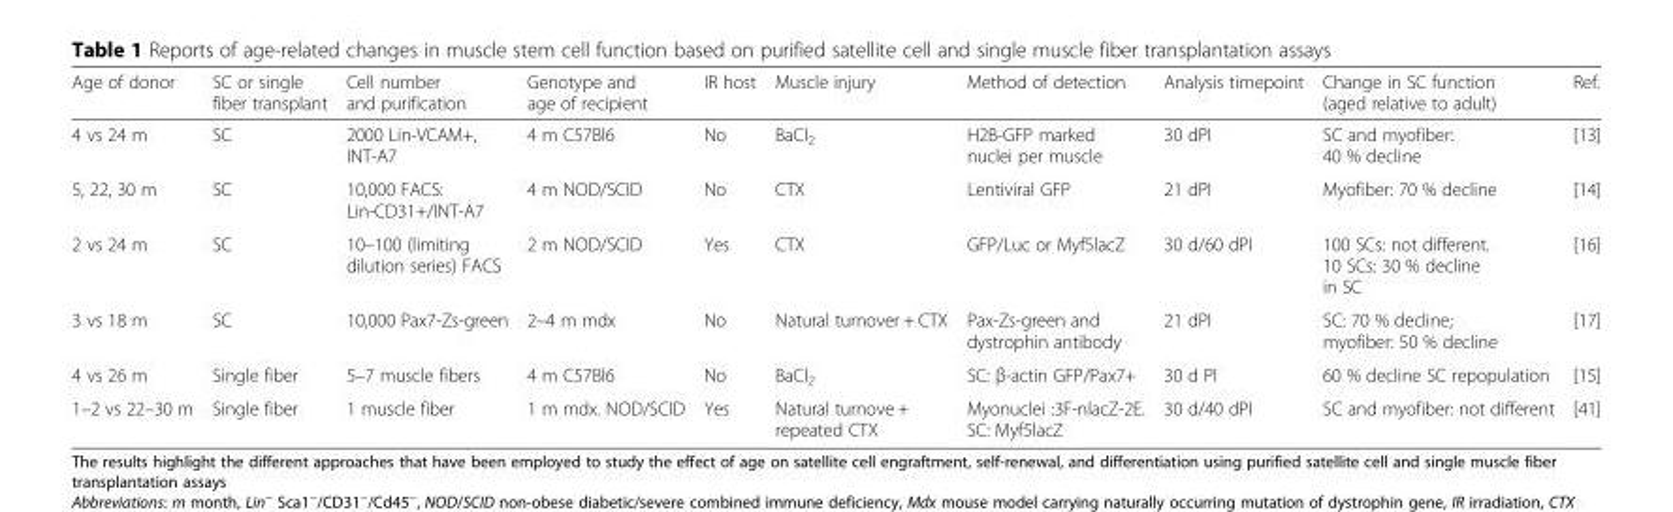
<table><thead><tr><td>Age of donor</td><td>SC or single fiber transplant</td><td>Cell number and purification</td><td>Genotype and age of recipient</td><td>IR host</td><td>Muscle injury</td><td>Method of detection</td><td>Analysis timepoint</td><td>Change in SC function (aged relative to adult)</td><td>Ref.</td></tr></thead><tbody><tr><td>4 vs 24 m</td><td>SC</td><td>2000 Lin-VCAM+, INT-A7</td><td>4 m C57Bl6</td><td>No</td><td>BaCl<sub>2</sub></td><td>H2B-GFP marked nuclei per muscle</td><td>30 dPI</td><td>SC and myofiber: 40 % decline</td><td>[13]</td></tr><tr><td>5, 22, 30 m</td><td>SC</td><td>10,000 FACS: Lin-CD31+/INT-A7</td><td>4 m NOD/SCID</td><td>No</td><td>CTX</td><td>Lentiviral GFP</td><td>21 dPI</td><td>Myofiber: 70 % decline</td><td>[14]</td></tr><tr><td>2 vs 24 m</td><td>SC</td><td>10–100 (limiting dilution series) FACS</td><td>2 m NOD/SCID</td><td>Yes</td><td>CTX</td><td>GFP/Luc or Myf5lacZ</td><td>30 d/60 dPI</td><td>100 SCs: not different. 10 SCs: 30 % decline in SC</td><td>[16]</td></tr><tr><td>3 vs 18 m</td><td>SC</td><td>10,000 Pax7-Zs-green</td><td>2–4 m mdx</td><td>No</td><td>Natural turnover + CTX</td><td>Pax-Zs-green and dystrophin antibody</td><td>21 dPI</td><td>SC: 70 % decline; myofiber: 50 % decline</td><td>[17]</td></tr><tr><td>4 vs 26 m</td><td>Single fiber</td><td>5–7 muscle fibers</td><td>4 m C57Bl6</td><td>No</td><td>BaCl<sub>2</sub></td><td>SC: β-actin GFP/Pax7+</td><td>30 d PI</td><td>60 % decline SC repopulation</td><td>[15]</td></tr><tr><td>1–2 vs 22–30 m</td><td>Single fiber</td><td>1 muscle fiber</td><td>1 m mdx. NOD/SCID</td><td>Yes</td><td>Natural turnove + repeated CTX</td><td>Myonuclei :3F-nlacZ-2E. SC: Myf5lacZ</td><td>30 d/40 dPI</td><td>SC and myofiber: not different</td><td>[41]</td></tr></tbody></table>